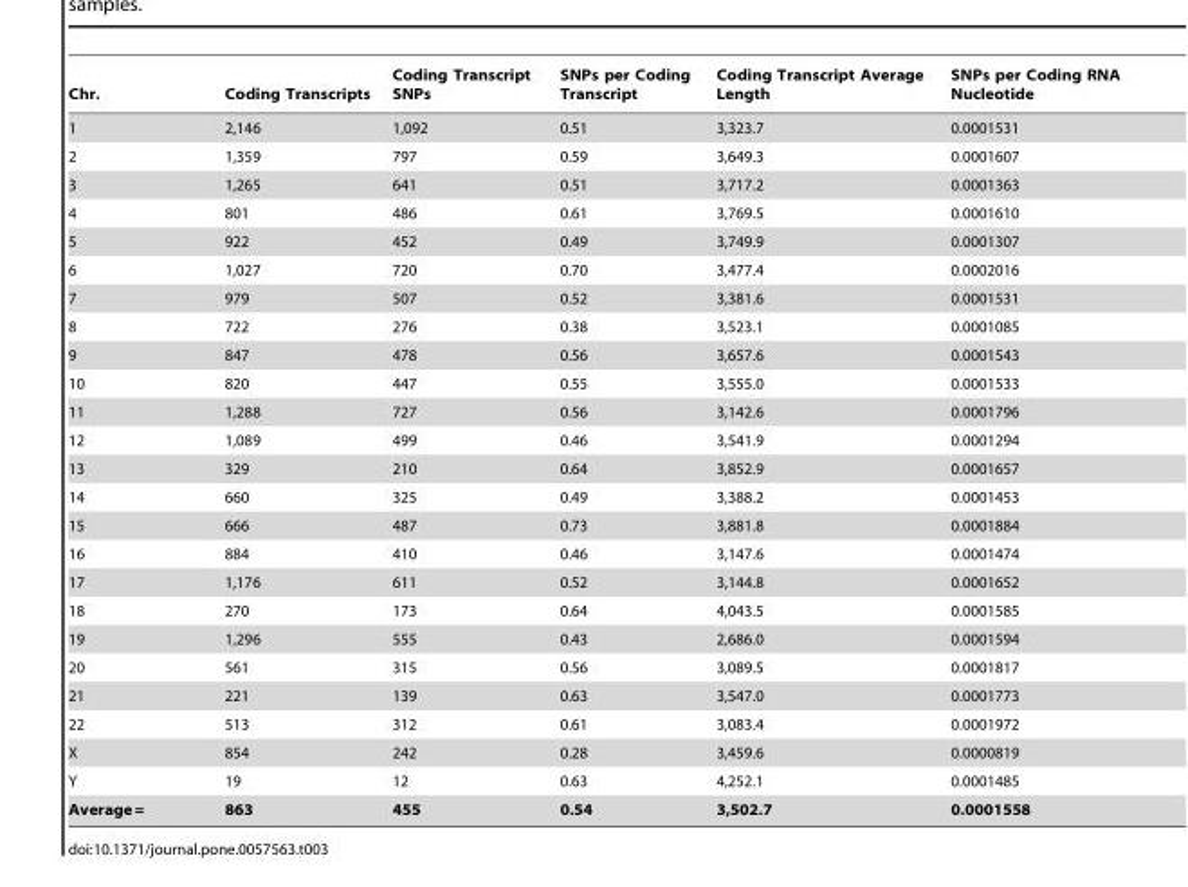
<table><thead><tr><td>Chr.</td><td>Coding Transcripts</td><td>Coding Transcript SNPs</td><td>SNPs per Coding Transcript</td><td>Coding Transcript Average Length</td><td>SNPs per Coding RNA Nucleotide</td></tr></thead><tbody><tr><td>1</td><td>2,146</td><td>1,092</td><td>0.51</td><td>3,323.7</td><td>0.0001531</td></tr><tr><td>2</td><td>1,359</td><td>797</td><td>0.59</td><td>3,649.3</td><td>0.0001607</td></tr><tr><td>3</td><td>1,265</td><td>641</td><td>0.51</td><td>3,717.2</td><td>0.0001363</td></tr><tr><td>4</td><td>801</td><td>486</td><td>0.61</td><td>3,769.5</td><td>0.0001610</td></tr><tr><td>5</td><td>922</td><td>452</td><td>0.49</td><td>3,749.9</td><td>0.0001307</td></tr><tr><td>6</td><td>1,027</td><td>720</td><td>0.70</td><td>3,477.4</td><td>0.0002016</td></tr><tr><td>7</td><td>979</td><td>507</td><td>0.52</td><td>3,381.6</td><td>0.0001531</td></tr><tr><td>8</td><td>722</td><td>276</td><td>0.38</td><td>3,523.1</td><td>0.0001085</td></tr><tr><td>9</td><td>847</td><td>478</td><td>0.56</td><td>3,657.6</td><td>0.0001543</td></tr><tr><td>10</td><td>820</td><td>447</td><td>0.55</td><td>3,555.0</td><td>0.0001533</td></tr><tr><td>11</td><td>1,288</td><td>727</td><td>0.56</td><td>3,142.6</td><td>0.0001796</td></tr><tr><td>12</td><td>1,089</td><td>499</td><td>0.46</td><td>3,541.9</td><td>0.0001294</td></tr><tr><td>13</td><td>329</td><td>210</td><td>0.64</td><td>3,852.9</td><td>0.0001657</td></tr><tr><td>14</td><td>660</td><td>325</td><td>0.49</td><td>3,388.2</td><td>0.0001453</td></tr><tr><td>15</td><td>666</td><td>487</td><td>0.73</td><td>3,881.8</td><td>0.0001884</td></tr><tr><td>16</td><td>884</td><td>410</td><td>0.46</td><td>3,147.6</td><td>0.0001474</td></tr><tr><td>17</td><td>1,176</td><td>611</td><td>0.52</td><td>3,144.8</td><td>0.0001652</td></tr><tr><td>18</td><td>270</td><td>173</td><td>0.64</td><td>4,043.5</td><td>0.0001585</td></tr><tr><td>19</td><td>1,296</td><td>555</td><td>0.43</td><td>2,686.0</td><td>0.0001594</td></tr><tr><td>20</td><td>561</td><td>315</td><td>0.56</td><td>3,089.5</td><td>0.0001817</td></tr><tr><td>21</td><td>221</td><td>139</td><td>0.63</td><td>3,547.0</td><td>0.0001773</td></tr><tr><td>22</td><td>513</td><td>312</td><td>0.61</td><td>3,083.4</td><td>0.0001972</td></tr><tr><td>X</td><td>854</td><td>242</td><td>0.28</td><td>3,459.6</td><td>0.0000819</td></tr><tr><td>Y</td><td>19</td><td>12</td><td>0.63</td><td>4,252.1</td><td>0.0001485</td></tr><tr><td>Average =</td><td>863</td><td>455</td><td>0.54</td><td>3,502.7</td><td>0.0001558</td></tr></tbody></table>